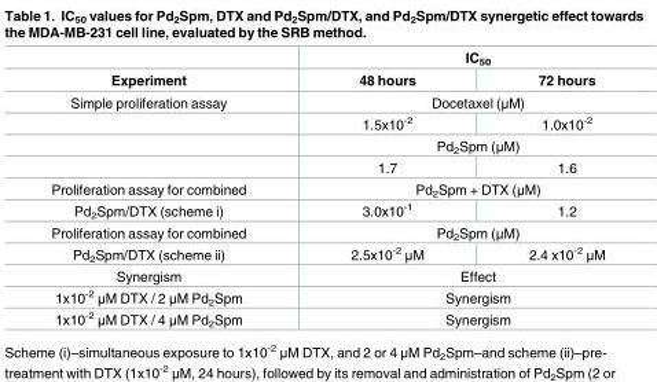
<table><thead><tr><td rowspan="2">Experiment</td><td colspan="2">IC<sub>50</sub></td></tr><tr><td>48 hours</td><td>72 hours</td></tr></thead><tbody><tr><td rowspan="4">Simple proliferation assay</td><td colspan="2">Docetaxel (μM)</td></tr><tr><td>1.5x10<sup>-2</sup></td><td>1.0x10<sup>-2</sup></td></tr><tr><td></td><td>Pd<sub>2</sub>Spm (μM)</td></tr><tr><td>1.7</td><td>1.6</td></tr><tr><td>Proliferation assay for combined</td><td colspan="2">Pd<sub>2</sub>Spm + DTX (μM)</td></tr><tr><td>Pd<sub>2</sub>Spm/DTX (scheme i)</td><td>3.0x10<sup>-1</sup></td><td>1.2</td></tr><tr><td>Proliferation assay for combined</td><td colspan="2">Pd<sub>2</sub>Spm (μM)</td></tr><tr><td>Pd<sub>2</sub>Spm/DTX (scheme ii)</td><td>2.5x10<sup>-2</sup> μM</td><td>2.4 x10<sup>-2</sup> μM</td></tr><tr><td>Synergism</td><td colspan="2">Effect</td></tr><tr><td>1x10<sup>-2</sup> μM DTX / 2 μM Pd<sub>2</sub>Spm</td><td colspan="2">Synergism</td></tr><tr><td>1x10<sup>-2</sup> μM DTX / 4 μM Pd<sub>2</sub>Spm</td><td colspan="2">Synergism</td></tr></tbody></table>